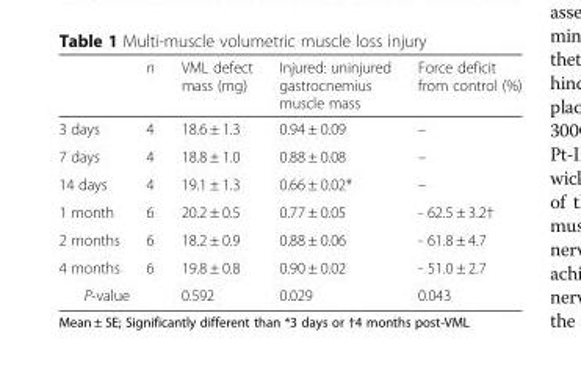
<table><thead><tr><td></td><td>n</td><td>VML defect mass (mg)</td><td>Injured: uninjured gastrocnemius muscle mass</td><td>Force deficit from control (%)</td></tr></thead><tbody><tr><td>3 days</td><td>4</td><td>18.6 ± 1.3</td><td>0.94 ± 0.09</td><td>–</td></tr><tr><td>7 days</td><td>4</td><td>18.8 ± 1.0</td><td>0.88 ± 0.08</td><td>–</td></tr><tr><td>14 days</td><td>4</td><td>19.1 ± 1.3</td><td>0.66 ± 0.02*</td><td>–</td></tr><tr><td>1 month</td><td>6</td><td>20.2 ± 0.5</td><td>0.77 ± 0.05</td><td>- 62.5 ± 3.2†</td></tr><tr><td>2 months</td><td>6</td><td>18.2 ± 0.9</td><td>0.88 ± 0.06</td><td>- 61.8 ± 4.7</td></tr><tr><td>4 months</td><td>6</td><td>19.8 ± 0.8</td><td>0.90 ± 0.02</td><td>- 51.0 ± 2.7</td></tr><tr><td colspan="2">P-value</td><td>0.592</td><td>0.029</td><td>0.043</td></tr></tbody></table>